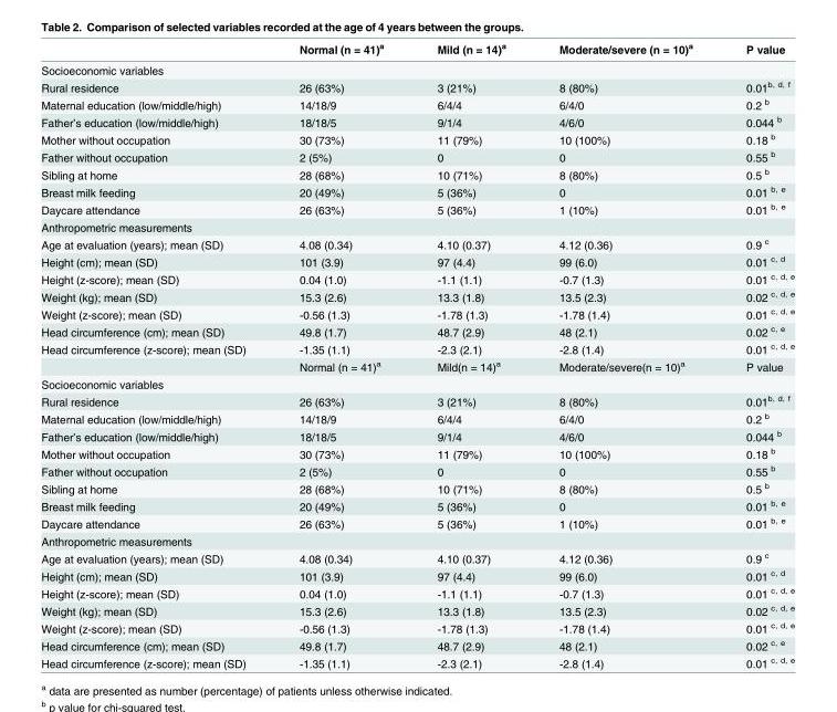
<table><thead><tr><td></td><td>Normal (n = 41)<sup>a</sup></td><td>Mild (n = 14)<sup>a</sup></td><td>Moderate/severe (n = 10)<sup>a</sup></td><td>P value</td></tr></thead><tbody><tr><td colspan="5">Socioeconomic variables</td></tr><tr><td>Rural residence</td><td>26 (63%)</td><td>3 (21%)</td><td>8 (80%)</td><td>0.01<sup>b, d, f</sup></td></tr><tr><td>Maternal education (low/middle/high)</td><td>14/18/9</td><td>6/4/4</td><td>6/4/0</td><td>0.2 <sup>b</sup></td></tr><tr><td>Father’s education (low/middle/high)</td><td>18/18/5</td><td>9/1/4</td><td>4/6/0</td><td>0.044 <sup>b</sup></td></tr><tr><td>Mother without occupation</td><td>30 (73%)</td><td>11 (79%)</td><td>10 (100%)</td><td>0.18 <sup>b</sup></td></tr><tr><td>Father without occupation</td><td>2 (5%)</td><td>0</td><td>0</td><td>0.55 <sup>b</sup></td></tr><tr><td>Sibling at home</td><td>28 (68%)</td><td>10 (71%)</td><td>8 (80%)</td><td>0.5 <sup>b</sup></td></tr><tr><td>Breast milk feeding</td><td>20 (49%)</td><td>5 (36%)</td><td>0</td><td>0.01 <sup>b, e</sup></td></tr><tr><td>Daycare attendance</td><td>26 (63%)</td><td>5 (36%)</td><td>1 (10%)</td><td>0.01 <sup>b, e</sup></td></tr><tr><td colspan="5">Anthropometric measurements</td></tr><tr><td>Age at evaluation (years); mean (SD)</td><td>4.08 (0.34)</td><td>4.10 (0.37)</td><td>4.12 (0.36)</td><td>0.9 <sup>c</sup></td></tr><tr><td>Height (cm); mean (SD)</td><td>101 (3.9)</td><td>97 (4.4)</td><td>99 (6.0)</td><td>0.01 <sup>c, d</sup></td></tr><tr><td>Height (z-score); mean (SD)</td><td>0.04 (1.0)</td><td>-1.1 (1.1)</td><td>-0.7 (1.3)</td><td>0.01 <sup>c, d, e</sup></td></tr><tr><td>Weight (kg); mean (SD)</td><td>15.3 (2.6)</td><td>13.3 (1.8)</td><td>13.5 (2.3)</td><td>0.02 <sup>c, d, e</sup></td></tr><tr><td>Weight (z-score); mean (SD)</td><td>-0.56 (1.3)</td><td>-1.78 (1.3)</td><td>-1.78 (1.4)</td><td>0.01 <sup>c, d, e</sup></td></tr><tr><td>Head circumference (cm); mean (SD)</td><td>49.8 (1.7)</td><td>48.7 (2.9)</td><td>48 (2.1)</td><td>0.02 <sup>c, e</sup></td></tr><tr><td rowspan="2">Head circumference (z-score); mean (SD)</td><td>-1.35 (1.1)</td><td>-2.3 (2.1)</td><td>-2.8 (1.4)</td><td>0.01 <sup>c, d, e</sup></td></tr><tr><td>Normal (n = 41)<sup>a</sup></td><td>Mild(n = 14)<sup>a</sup></td><td>Moderate/severe(n = 10)<sup>a</sup></td><td>P value</td></tr><tr><td colspan="5">Socioeconomic variables</td></tr><tr><td>Rural residence</td><td>26 (63%)</td><td>3 (21%)</td><td>8 (80%)</td><td>0.01<sup>b, d, f</sup></td></tr><tr><td>Maternal education (low/middle/high)</td><td>14/18/9</td><td>6/4/4</td><td>6/4/0</td><td>0.2 <sup>b</sup></td></tr><tr><td>Father’s education (low/middle/high)</td><td>18/18/5</td><td>9/1/4</td><td>4/6/0</td><td>0.044 <sup>b</sup></td></tr><tr><td>Mother without occupation</td><td>30 (73%)</td><td>11 (79%)</td><td>10 (100%)</td><td>0.18 <sup>b</sup></td></tr><tr><td>Father without occupation</td><td>2 (5%)</td><td>0</td><td>0</td><td>0.55 <sup>b</sup></td></tr><tr><td>Sibling at home</td><td>28 (68%)</td><td>10 (71%)</td><td>8 (80%)</td><td>0.5 <sup>b</sup></td></tr><tr><td>Breast milk feeding</td><td>20 (49%)</td><td>5 (36%)</td><td>0</td><td>0.01 <sup>b, e</sup></td></tr><tr><td>Daycare attendance</td><td>26 (63%)</td><td>5 (36%)</td><td>1 (10%)</td><td>0.01 <sup>b, e</sup></td></tr><tr><td colspan="5">Anthropometric measurements</td></tr><tr><td>Age at evaluation (years); mean (SD)</td><td>4.08 (0.34)</td><td>4.10 (0.37)</td><td>4.12 (0.36)</td><td>0.9 <sup>c</sup></td></tr><tr><td>Height (cm); mean (SD)</td><td>101 (3.9)</td><td>97 (4.4)</td><td>99 (6.0)</td><td>0.01 <sup>c, d</sup></td></tr><tr><td>Height (z-score); mean (SD)</td><td>0.04 (1.0)</td><td>-1.1 (1.1)</td><td>-0.7 (1.3)</td><td>0.01 <sup>c, d, e</sup></td></tr><tr><td>Weight (kg); mean (SD)</td><td>15.3 (2.6)</td><td>13.3 (1.8)</td><td>13.5 (2.3)</td><td>0.02 <sup>c, d, e</sup></td></tr><tr><td>Weight (z-score); mean (SD)</td><td>-0.56 (1.3)</td><td>-1.78 (1.3)</td><td>-1.78 (1.4)</td><td>0.01 <sup>c, d, e</sup></td></tr><tr><td>Head circumference (cm); mean (SD)</td><td>49.8 (1.7)</td><td>48.7 (2.9)</td><td>48 (2.1)</td><td>0.02 <sup>c, e</sup></td></tr><tr><td>Head circumference (z-score); mean (SD)</td><td>-1.35 (1.1)</td><td>-2.3 (2.1)</td><td>-2.8 (1.4)</td><td>0.01 <sup>c, d, e</sup></td></tr></tbody></table>